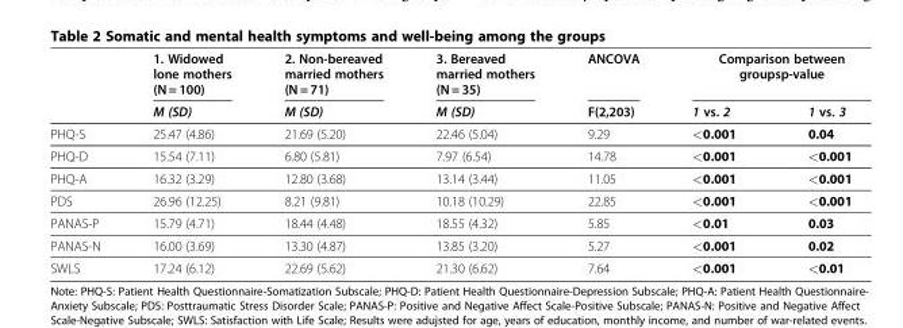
<table><thead><tr><td rowspan="2"></td><td rowspan="2">1. Widowed lone mothers (N = 100) M (SD)</td><td rowspan="2">2. Non-bereaved married mothers (N = 71) M (SD)</td><td rowspan="2">3. Bereaved married mothers (N = 35) M (SD)</td><td rowspan="2">ANCOVA F(2,203)</td><td colspan="2">Comparison between groupsp-value</td></tr><tr><td>1 vs. 2</td><td>1 vs. 3</td></tr></thead><tbody><tr><td>PHQ-S</td><td>25.47 (4.86)</td><td>21.69 (5.20)</td><td>22.46 (5.04)</td><td>9.29</td><td>&lt;0.001</td><td>0.04</td></tr><tr><td>PHQ-D</td><td>15.54 (7.11)</td><td>6.80 (5.81)</td><td>7.97 (6.54)</td><td>14.78</td><td>&lt;0.001</td><td>&lt;0.001</td></tr><tr><td>PHQ-A</td><td>16.32 (3.29)</td><td>12.80 (3.68)</td><td>13.14 (3.44)</td><td>11.05</td><td>&lt;0.001</td><td>&lt;0.001</td></tr><tr><td>PDS</td><td>26.96 (12.25)</td><td>8.21 (9.81)</td><td>10.18 (10.29)</td><td>22.85</td><td>&lt;0.001</td><td>&lt;0.001</td></tr><tr><td>PANAS-P</td><td>15.79 (4.71)</td><td>18.44 (4.48)</td><td>18.55 (4.32)</td><td>5.85</td><td>&lt;0.01</td><td>0.03</td></tr><tr><td>PANAS-N</td><td>16.00 (3.69)</td><td>13.30 (4.87)</td><td>13.85 (3.20)</td><td>5.27</td><td>&lt;0.001</td><td>0.02</td></tr><tr><td>SWLS</td><td>17.24 (6.12)</td><td>22.69 (5.62)</td><td>21.30 (6.62)</td><td>7.64</td><td>&lt;0.001</td><td>&lt;0.01</td></tr></tbody></table>